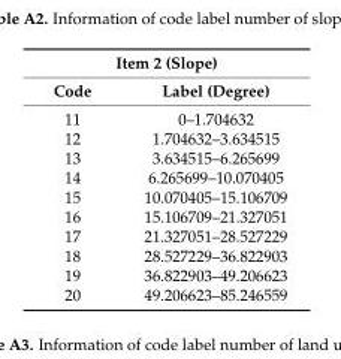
<table><thead><tr><td colspan="2">Item 2 (Slope)</td></tr><tr><td>Code</td><td>Label (Degree)</td></tr></thead><tbody><tr><td>11</td><td>0–1.704632</td></tr><tr><td>12</td><td>1.704632–3.634515</td></tr><tr><td>13</td><td>3.634515–6.265699</td></tr><tr><td>14</td><td>6.265699–10.070405</td></tr><tr><td>15</td><td>10.070405–15.106709</td></tr><tr><td>16</td><td>15.106709–21.327051</td></tr><tr><td>17</td><td>21.327051–28.527229</td></tr><tr><td>18</td><td>28.527229–36.822903</td></tr><tr><td>19</td><td>36.822903–49.206623</td></tr><tr><td>20</td><td>49.206623–85.246559</td></tr></tbody></table>